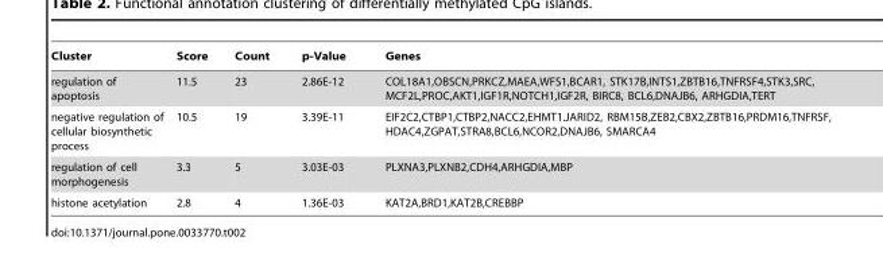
<table><thead><tr><td>Cluster</td><td>Score</td><td>Count</td><td>p-Value</td><td>Genes</td></tr></thead><tbody><tr><td>regulation of apoptosis</td><td>11.5</td><td>23</td><td>2.86E-12</td><td>COL18A1,OBSCN,PRKCZ,MAEA,WFS1,BCAR1, STK17B,INTS1,ZBTB16,TNFRSF4,STK3,SRC, MCF2L,PROC,AKT1,IGF1R,NOTCH1,IGF2R, BIRC8, BCL6,DNAJB6, ARHGDIA,TERT</td></tr><tr><td>negative regulation of cellular biosynthetic process</td><td>10.5</td><td>19</td><td>3.39E-11</td><td>EIF2C2,CTBP1,CTBP2,NACC2,EHMT1.JARID2, RBM15B,ZEB2,CBX2,ZBTB16,PRDM16,TNFRSF, HDAC4,ZGPAT,STRA8,BCL6,NCOR2,DNAJB6, SMARCA4</td></tr><tr><td>regulation of cell morphogenesis</td><td>3.3</td><td>5</td><td>3.03E-03</td><td>PLXNA3,PLXNB2,CDH4,ARHGDIA,MBP</td></tr><tr><td>histone acetylation</td><td>2.8</td><td>4</td><td>1.36E-03</td><td>KAT2A,BRD1,KAT2B,CREBBP</td></tr></tbody></table>